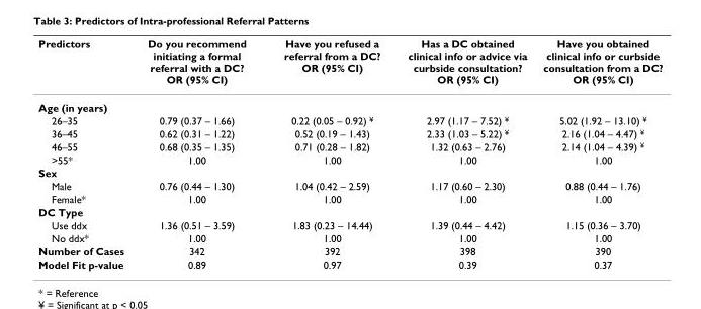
<table><thead><tr><td>Predictors</td><td>Do you recommend initiating a formal referral with a DC? OR (95% CI)</td><td>Have you refused a referral from a DC? OR (95% CI)</td><td>Has a DC obtained clinical info or advice via curbside consultation? OR (95% CI)</td><td>Have you obtained clinical info or curbside consultation from a DC? OR (95% CI)</td></tr></thead><tbody><tr><td colspan="5">Age (in years)</td></tr><tr><td>26–35</td><td>0.79 (0.37 – 1.66)</td><td>0.22 (0.05 – 0.92) <sup>¥</sup></td><td>2.97 (1.17 – 7.52) <sup>¥</sup></td><td>5.02 (1.92 – 13.10) <sup>¥</sup></td></tr><tr><td>36–45</td><td>0.62 (0.31 – 1.22)</td><td>0.52 (0.19 – 1.43)</td><td>2.33 (1.03 – 5.22) <sup>¥</sup></td><td>2.16 (1.04 – 4.47) <sup>¥</sup></td></tr><tr><td>46–55</td><td>0.68 (0.35 – 1.35)</td><td>0.71 (0.28 – 1.82)</td><td>1.32 (0.63 – 2.76)</td><td>2.14 (1.04 – 4.39) <sup>¥</sup></td></tr><tr><td>&gt;55*</td><td>1.00</td><td>1.00</td><td>1.00</td><td>1.00</td></tr><tr><td colspan="5">Sex</td></tr><tr><td>Male</td><td>0.76 (0.44 – 1.30)</td><td>1.04 (0.42 – 2.59)</td><td>1.17 (0.60 – 2.30)</td><td>0.88 (0.44 – 1.76)</td></tr><tr><td>Female*</td><td>1.00</td><td>1.00</td><td>1.00</td><td>1.00</td></tr><tr><td colspan="5">DC Type</td></tr><tr><td>Use ddx</td><td>1.36 (0.51 – 3.59)</td><td>1.83 (0.23 – 14.44)</td><td>1.39 (0.44 – 4.42)</td><td>1.15 (0.36 – 3.70)</td></tr><tr><td>No ddx*</td><td>1.00</td><td>1.00</td><td>1.00</td><td>1.00</td></tr><tr><td>Number of Cases</td><td>342</td><td>392</td><td>398</td><td>390</td></tr><tr><td>Model Fit p-value</td><td>0.89</td><td>0.97</td><td>0.39</td><td>0.37</td></tr></tbody></table>